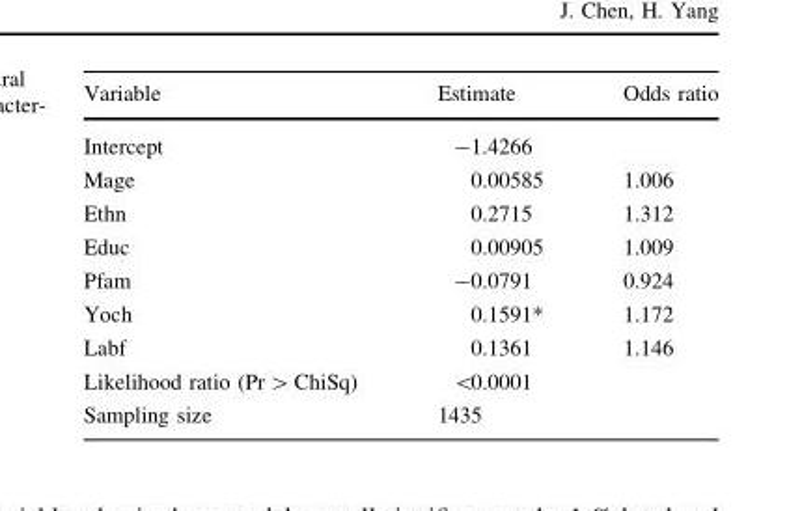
<table><thead><tr><td>Variable</td><td>Estimate</td><td>Odds ratio</td></tr></thead><tbody><tr><td>Intercept</td><td>-1.4266</td><td></td></tr><tr><td>Mage</td><td>0.00585</td><td>1.006</td></tr><tr><td>Ethn</td><td>0.2715</td><td>1.312</td></tr><tr><td>Educ</td><td>0.00905</td><td>1.009</td></tr><tr><td>Pfam</td><td>-0.0791</td><td>0.924</td></tr><tr><td>Yoch</td><td>0.1591*</td><td>1.172</td></tr><tr><td>Labf</td><td>0.1361</td><td>1.146</td></tr><tr><td>Likelihood ratio (Pr &gt; ChiSq)</td><td>&lt;0.0001</td><td></td></tr><tr><td>Sampling size</td><td>1435</td><td></td></tr></tbody></table>